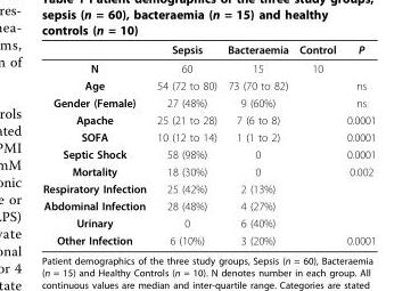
<table><thead><tr><td></td><td>Sepsis</td><td>Bacteraemia</td><td>Control</td><td>P</td></tr></thead><tbody><tr><td>N</td><td>60</td><td>15</td><td>10</td><td></td></tr><tr><td>Age</td><td>54 (72 to 80)</td><td>73 (70 to 82)</td><td></td><td>ns</td></tr><tr><td>Gender (Female)</td><td>27 (48%)</td><td>9 (60%)</td><td></td><td>ns</td></tr><tr><td>Apache</td><td>25 (21 to 28)</td><td>7 (6 to 8)</td><td></td><td>0.0001</td></tr><tr><td>SOFA</td><td>10 (12 to 14)</td><td>1 (1 to 2)</td><td></td><td>0.0001</td></tr><tr><td>Septic Shock</td><td>58 (98%)</td><td>0</td><td></td><td>0.0001</td></tr><tr><td>Mortality</td><td>18 (30%)</td><td>0</td><td></td><td>0.002</td></tr><tr><td>Respiratory Infection</td><td>25 (42%)</td><td>2 (13%)</td><td></td><td></td></tr><tr><td>Abdominal Infection</td><td>28 (48%)</td><td>4 (27%)</td><td></td><td></td></tr><tr><td>Urinary</td><td>0</td><td>6 (40%)</td><td></td><td></td></tr><tr><td>Other Infection</td><td>6 (10%)</td><td>3 (20%)</td><td></td><td>0.0001</td></tr></tbody></table>